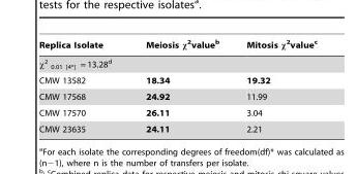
<table><thead><tr><td>Replica Isolate</td><td>Meiosis χ<sup>2</sup>value<sup>b</sup></td><td>Mitosis χ<sup>2</sup>value<sup>c</sup></td></tr></thead><tbody><tr><td colspan="3">χ<sup>2</sup> <sub>0.01 [4*]</sub> = 13.28<sup>d</sup></td></tr><tr><td>CMW 13582</td><td>18.34</td><td>19.32</td></tr><tr><td>CMW 17568</td><td>24.92</td><td>11.99</td></tr><tr><td>CMW 17570</td><td>26.11</td><td>3.04</td></tr><tr><td>CMW 23635</td><td>24.11</td><td>2.21</td></tr></tbody></table>